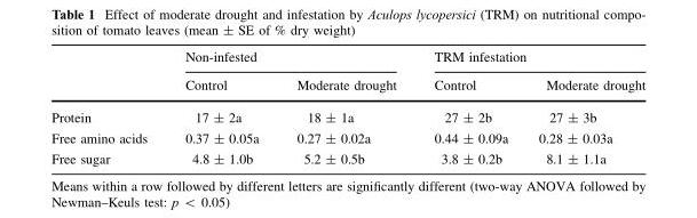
<table><thead><tr><td rowspan="2"></td><td colspan="2">Non-infested</td><td colspan="2">TRM infestation</td></tr><tr><td>Control</td><td>Moderate drought</td><td>Control</td><td>Moderate drought</td></tr></thead><tbody><tr><td>Protein</td><td>17 ± 2a</td><td>18 ± 1a</td><td>27 ± 2b</td><td>27 ± 3b</td></tr><tr><td>Free amino acids</td><td>0.37 ± 0.05a</td><td>0.27 ± 0.02a</td><td>0.44 ± 0.09a</td><td>0.28 ± 0.03a</td></tr><tr><td>Free sugar</td><td>4.8 ± 1.0b</td><td>5.2 ± 0.5b</td><td>3.8 ± 0.2b</td><td>8.1 ± 1.1a</td></tr></tbody></table>